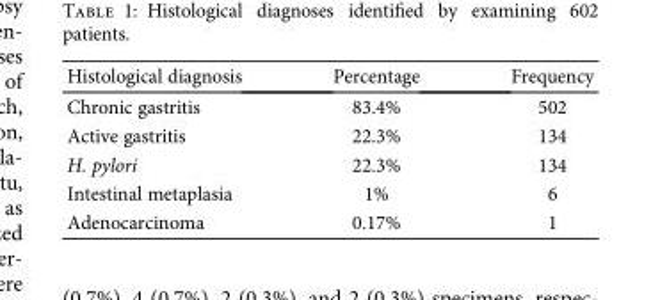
<table><thead><tr><td>Histological diagnosis</td><td>Percentage</td><td>Frequency</td></tr></thead><tbody><tr><td>Chronic gastritis</td><td>83.4%</td><td>502</td></tr><tr><td>Active gastritis</td><td>22.3%</td><td>134</td></tr><tr><td>H. pylori</td><td>22.3%</td><td>134</td></tr><tr><td>Intestinal metaplasia</td><td>1%</td><td>6</td></tr><tr><td>Adenocarcinoma</td><td>0.17%</td><td>1</td></tr></tbody></table>